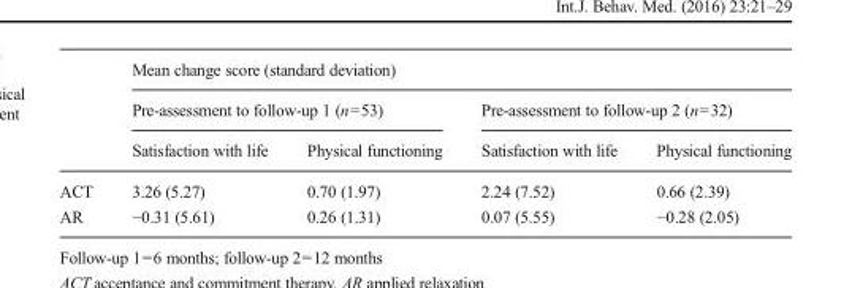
<table><thead><tr><td rowspan="3"></td><td colspan="4">Mean change score (standard deviation)</td></tr><tr><td colspan="2">Pre-assessment to follow-up 1 (n=53)</td><td colspan="2">Pre-assessment to follow-up 2 (n=32)</td></tr><tr><td>Satisfaction with life</td><td>Physical functioning</td><td>Satisfaction with life</td><td>Physical functioning</td></tr></thead><tbody><tr><td>ACT</td><td>3.26 (5.27)</td><td>0.70 (1.97)</td><td>2.24 (7.52)</td><td>0.66 (2.39)</td></tr><tr><td>AR</td><td>−0.31 (5.61)</td><td>0.26 (1.31)</td><td>0.07 (5.55)</td><td>−0.28 (2.05)</td></tr></tbody></table>